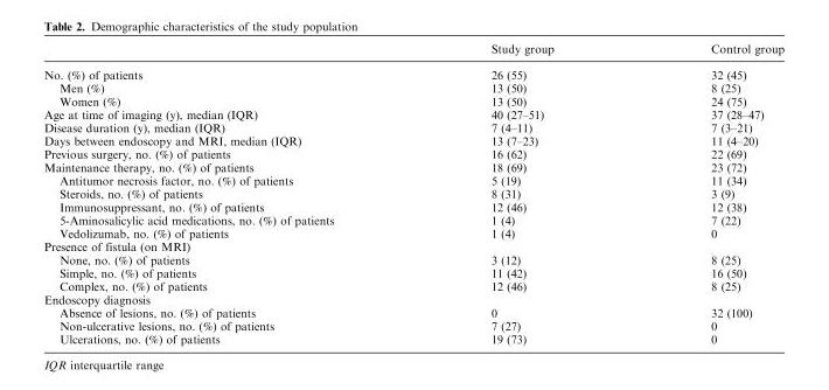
<table><thead><tr><td></td><td>Study group</td><td>Control group</td></tr></thead><tbody><tr><td>No. (%) of patients</td><td>26 (55)</td><td>32 (45)</td></tr><tr><td>Men (%)</td><td>13 (50)</td><td>8 (25)</td></tr><tr><td>Women (%)</td><td>13 (50)</td><td>24 (75)</td></tr><tr><td>Age at time of imaging (y), median (IQR)</td><td>40 (27–51)</td><td>37 (28–47)</td></tr><tr><td>Disease duration (y), median (IQR)</td><td>7 (4–11)</td><td>7 (3–21)</td></tr><tr><td>Days between endoscopy and MRI, median (IQR)</td><td>13 (7–23)</td><td>11 (4–20)</td></tr><tr><td>Previous surgery, no. (%) of patients</td><td>16 (62)</td><td>22 (69)</td></tr><tr><td>Maintenance therapy, no. (%) of patients</td><td>18 (69)</td><td>23 (72)</td></tr><tr><td>Antitumor necrosis factor, no. (%) of patients</td><td>5 (19)</td><td>11 (34)</td></tr><tr><td>Steroids, no. (%) of patients</td><td>8 (31)</td><td>3 (9)</td></tr><tr><td>Immunosuppressant, no. (%) of patients</td><td>12 (46)</td><td>12 (38)</td></tr><tr><td>5-Aminosalicylic acid medications, no. (%) of patients</td><td>1 (4)</td><td>7 (22)</td></tr><tr><td>Vedolizumab, no. (%) of patients</td><td>1 (4)</td><td>0</td></tr><tr><td colspan="3">Presence of fistula (on MRI)</td></tr><tr><td>None, no. (%) of patients</td><td>3 (12)</td><td>8 (25)</td></tr><tr><td>Simple, no. (%) of patients</td><td>11 (42)</td><td>16 (50)</td></tr><tr><td>Complex, no. (%) of patients</td><td>12 (46)</td><td>8 (25)</td></tr><tr><td colspan="3">Endoscopy diagnosis</td></tr><tr><td>Absence of lesions, no. (%) of patients</td><td>0</td><td>32 (100)</td></tr><tr><td>Non-ulcerative lesions, no. (%) of patients</td><td>7 (27)</td><td>0</td></tr><tr><td>Ulcerations, no. (%) of patients</td><td>19 (73)</td><td>0</td></tr></tbody></table>